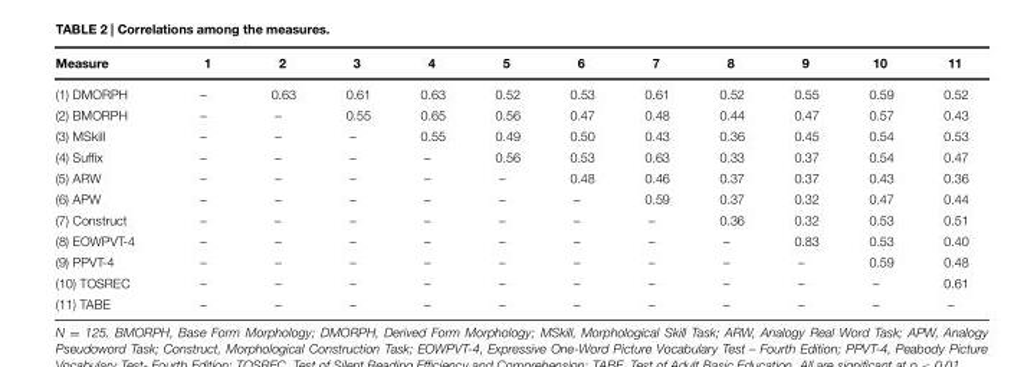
<table><thead><tr><td>Measure</td><td>1</td><td>2</td><td>3</td><td>4</td><td>5</td><td>6</td><td>7</td><td>8</td><td>9</td><td>10</td><td>11</td></tr></thead><tbody><tr><td>(1) DMORPH</td><td>–</td><td>0.63</td><td>0.61</td><td>0.63</td><td>0.52</td><td>0.53</td><td>0.61</td><td>0.52</td><td>0.55</td><td>0.59</td><td>0.52</td></tr><tr><td>(2) BMORPH</td><td>–</td><td>–</td><td>0.55</td><td>0.65</td><td>0.56</td><td>0.47</td><td>0.48</td><td>0.44</td><td>0.47</td><td>0.57</td><td>0.43</td></tr><tr><td>(3) MSkill</td><td>–</td><td>–</td><td>–</td><td>0.55</td><td>0.49</td><td>0.50</td><td>0.43</td><td>0.36</td><td>0.45</td><td>0.54</td><td>0.53</td></tr><tr><td>(4) Suffix</td><td>–</td><td>–</td><td>–</td><td>–</td><td>0.56</td><td>0.53</td><td>0.63</td><td>0.33</td><td>0.37</td><td>0.54</td><td>0.47</td></tr><tr><td>(5) ARW</td><td>–</td><td>–</td><td>–</td><td>–</td><td>–</td><td>0.48</td><td>0.46</td><td>0.37</td><td>0.37</td><td>0.43</td><td>0.36</td></tr><tr><td>(6) APW</td><td>–</td><td>–</td><td>–</td><td>–</td><td>–</td><td>–</td><td>0.59</td><td>0.37</td><td>0.32</td><td>0.47</td><td>0.44</td></tr><tr><td>(7) Construct</td><td>–</td><td>–</td><td>–</td><td>–</td><td>–</td><td>–</td><td>–</td><td>0.36</td><td>0.32</td><td>0.53</td><td>0.51</td></tr><tr><td>(8) EOWPVT-4</td><td>–</td><td>–</td><td>–</td><td>–</td><td>–</td><td>–</td><td>–</td><td>–</td><td>0.83</td><td>0.53</td><td>0.40</td></tr><tr><td>(9) PPVT-4</td><td>–</td><td>–</td><td>–</td><td>–</td><td>–</td><td>–</td><td>–</td><td>–</td><td>–</td><td>0.59</td><td>0.48</td></tr><tr><td>(10) TOSREC</td><td>–</td><td>–</td><td>–</td><td>–</td><td>–</td><td>–</td><td>–</td><td>–</td><td>–</td><td>–</td><td>0.61</td></tr><tr><td>(11) TABE</td><td>–</td><td>–</td><td>–</td><td>–</td><td>–</td><td>–</td><td>–</td><td>–</td><td>–</td><td>–</td><td>–</td></tr></tbody></table>